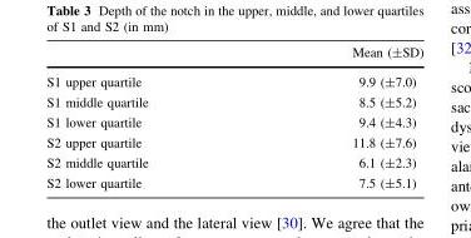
<table><thead><tr><td></td><td>Mean (±SD)</td></tr></thead><tbody><tr><td>S1 upper quartile</td><td>9.9 (±7.0)</td></tr><tr><td>S1 middle quartile</td><td>8.5 (±5.2)</td></tr><tr><td>S1 lower quartile</td><td>9.4 (±4.3)</td></tr><tr><td>S2 upper quartile</td><td>11.8 (±7.6)</td></tr><tr><td>S2 middle quartile</td><td>6.1 (±2.3)</td></tr><tr><td>S2 lower quartile</td><td>7.5 (±5.1)</td></tr></tbody></table>